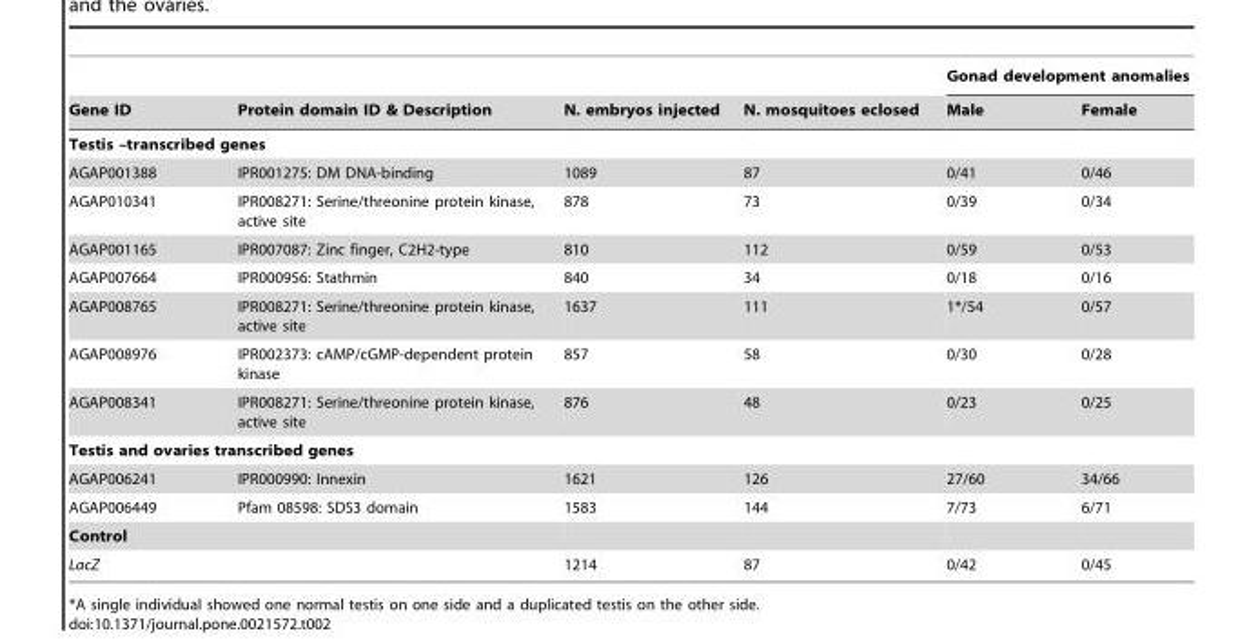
<table><thead><tr><td rowspan="2">Gene ID</td><td rowspan="2">Protein domain ID &amp; Description</td><td rowspan="2">N. embryos injected</td><td rowspan="2">N. mosquitoes eclosed</td><td colspan="2">Gonad development anomalies</td></tr><tr><td>Male</td><td>Female</td></tr></thead><tbody><tr><td colspan="6">Testis –transcribed genes</td></tr><tr><td>AGAP001388</td><td>IPR001275: DM DNA-binding</td><td>1089</td><td>87</td><td>0/41</td><td>0/46</td></tr><tr><td>AGAP010341</td><td>IPR008271: Serine/threonine protein kinase, active site</td><td>878</td><td>73</td><td>0/39</td><td>0/34</td></tr><tr><td>AGAP001165</td><td>IPR007087: Zinc finger, C2H2-type</td><td>810</td><td>112</td><td>0/59</td><td>0/53</td></tr><tr><td>AGAP007664</td><td>IPR000956: Stathmin</td><td>840</td><td>34</td><td>0/18</td><td>0/16</td></tr><tr><td>AGAP008765</td><td>IPR008271: Serine/threonine protein kinase, active site</td><td>1637</td><td>111</td><td>1*/54</td><td>0/57</td></tr><tr><td>AGAP008976</td><td>IPR002373: cAMP/cGMP-dependent protein kinase</td><td>857</td><td>58</td><td>0/30</td><td>0/28</td></tr><tr><td>AGAP008341</td><td>IPR008271: Serine/threonine protein kinase, active site</td><td>876</td><td>48</td><td>0/23</td><td>0/25</td></tr><tr><td colspan="6">Testis and ovaries transcribed genes</td></tr><tr><td>AGAP006241</td><td>IPR000990: Innexin</td><td>1621</td><td>126</td><td>27/60</td><td>34/66</td></tr><tr><td>AGAP006449</td><td>Pfam 08598: SDS3 domain</td><td>1583</td><td>144</td><td>7/73</td><td>6/71</td></tr><tr><td colspan="6">Control</td></tr><tr><td>LacZ</td><td></td><td>1214</td><td>87</td><td>0/42</td><td>0/45</td></tr></tbody></table>